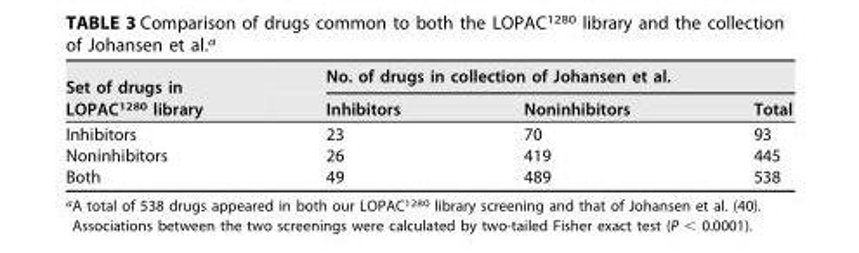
<table><thead><tr><td rowspan="2">Set of drugs in LOPAC<sup>1280</sup> library</td><td colspan="3">No. of drugs in collection of Johansen et al.</td></tr><tr><td>Inhibitors</td><td>Noninhibitors</td><td>Total</td></tr></thead><tbody><tr><td>Inhibitors</td><td>23</td><td>70</td><td>93</td></tr><tr><td>Noninhibitors</td><td>26</td><td>419</td><td>445</td></tr><tr><td>Both</td><td>49</td><td>489</td><td>538</td></tr></tbody></table>